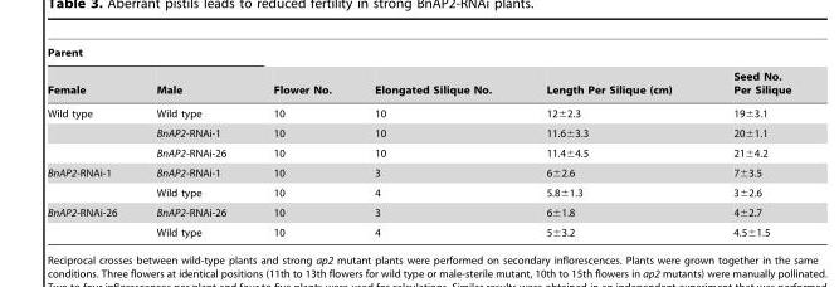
<table><thead><tr><td colspan="2">Parent</td><td rowspan="2">Flower No.</td><td rowspan="2">Elongated Silique No.</td><td rowspan="2">Length Per Silique (cm)</td><td rowspan="2">Seed No. Per Silique</td></tr><tr><td>Female</td><td>Male</td></tr></thead><tbody><tr><td rowspan="3">Wild type</td><td>Wild type</td><td>10</td><td>10</td><td>12±2.3</td><td>19±3.1</td></tr><tr><td>BnAP2-RNAi-1</td><td>10</td><td>10</td><td>11.6±3.3</td><td>20±1.1</td></tr><tr><td>BnAP2-RNAi-26</td><td>10</td><td>10</td><td>11.4±4.5</td><td>21±4.2</td></tr><tr><td rowspan="2">BnAP2-RNAi-1</td><td>BnAP2-RNAi-1</td><td>10</td><td>3</td><td>6±2.6</td><td>7±3.5</td></tr><tr><td>Wild type</td><td>10</td><td>4</td><td>5.8±1.3</td><td>3±2.6</td></tr><tr><td rowspan="2">BnAP2-RNAi-26</td><td>BnAP2-RNAi-26</td><td>10</td><td>3</td><td>6±1.8</td><td>4±2.7</td></tr><tr><td>Wild type</td><td>10</td><td>4</td><td>5±3.2</td><td>4.5±1.5</td></tr></tbody></table>